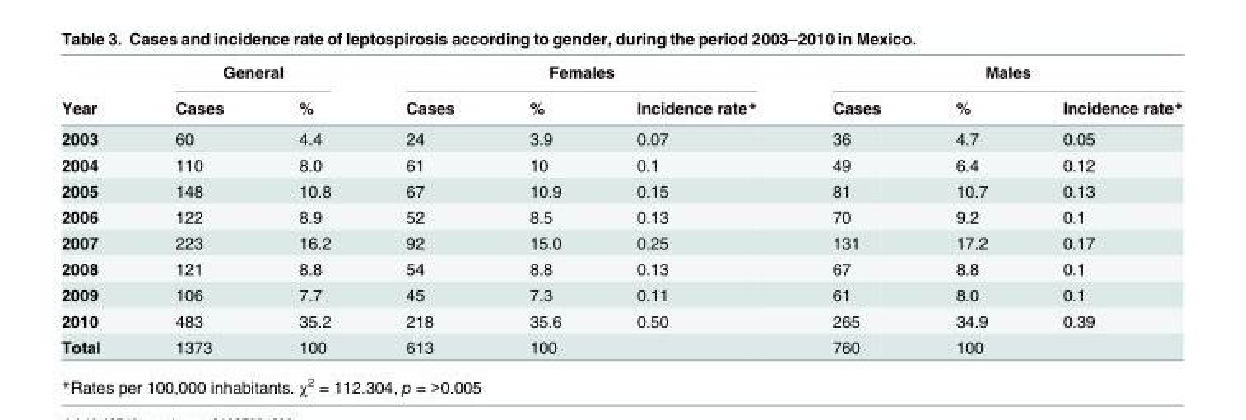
<table><thead><tr><td rowspan="2">Year</td><td colspan="2">General</td><td colspan="3">Females</td><td colspan="3">Males</td></tr><tr><td>Cases</td><td>%</td><td>Cases</td><td>%</td><td>Incidence rate*</td><td>Cases</td><td>%</td><td>Incidence rate*</td></tr></thead><tbody><tr><td>2003</td><td>60</td><td>4.4</td><td>24</td><td>3.9</td><td>0.07</td><td>36</td><td>4.7</td><td>0.05</td></tr><tr><td>2004</td><td>110</td><td>8.0</td><td>61</td><td>10</td><td>0.1</td><td>49</td><td>6.4</td><td>0.12</td></tr><tr><td>2005</td><td>148</td><td>10.8</td><td>67</td><td>10.9</td><td>0.15</td><td>81</td><td>10.7</td><td>0.13</td></tr><tr><td>2006</td><td>122</td><td>8.9</td><td>52</td><td>8.5</td><td>0.13</td><td>70</td><td>9.2</td><td>0.1</td></tr><tr><td>2007</td><td>223</td><td>16.2</td><td>92</td><td>15.0</td><td>0.25</td><td>131</td><td>17.2</td><td>0.17</td></tr><tr><td>2008</td><td>121</td><td>8.8</td><td>54</td><td>8.8</td><td>0.13</td><td>67</td><td>8.8</td><td>0.1</td></tr><tr><td>2009</td><td>106</td><td>7.7</td><td>45</td><td>7.3</td><td>0.11</td><td>61</td><td>8.0</td><td>0.1</td></tr><tr><td>2010</td><td>483</td><td>35.2</td><td>218</td><td>35.6</td><td>0.50</td><td>265</td><td>34.9</td><td>0.39</td></tr><tr><td>Total</td><td>1373</td><td>100</td><td>613</td><td>100</td><td></td><td>760</td><td>100</td><td></td></tr></tbody></table>